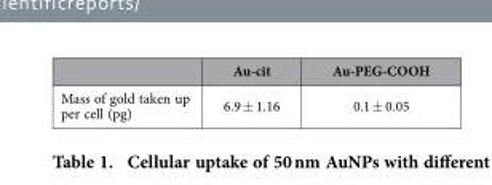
<table><thead><tr><td></td><td>Au-cit</td><td>Au-PEG-COOH</td></tr></thead><tbody><tr><td>Mass of gold taken up per cell (pg)</td><td>6.9 ± 1.16</td><td>0.1 ± 0.05</td></tr></tbody></table>